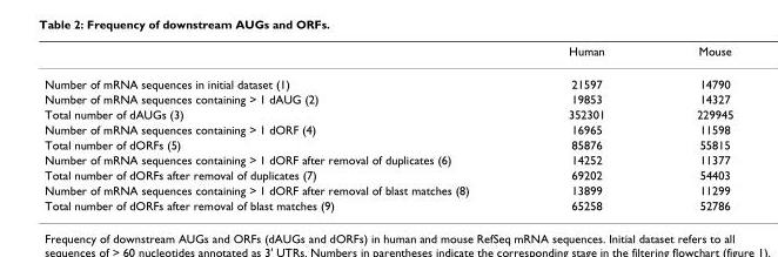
<table><thead><tr><td></td><td>Human</td><td>Mouse</td></tr></thead><tbody><tr><td>Number of mRNA sequences in initial dataset (1)</td><td>21597</td><td>14790</td></tr><tr><td>Number of mRNA sequences containing &gt; 1 dAUG (2)</td><td>19853</td><td>14327</td></tr><tr><td>Total number of dAUGs (3)</td><td>352301</td><td>229945</td></tr><tr><td>Number of mRNA sequences containing &gt; 1 dORF (4)</td><td>16965</td><td>11598</td></tr><tr><td>Total number of dORFs (5)</td><td>85876</td><td>55815</td></tr><tr><td>Number of mRNA sequences containing &gt; 1 dORF after removal of duplicates (6)</td><td>14252</td><td>11377</td></tr><tr><td>Total number of dORFs after removal of duplicates (7)</td><td>69202</td><td>54403</td></tr><tr><td>Number of mRNA sequences containing &gt; 1 dORF after removal of blast matches (8)</td><td>13899</td><td>11299</td></tr><tr><td>Total number of dORFs after removal of blast matches (9)</td><td>65258</td><td>52786</td></tr></tbody></table>